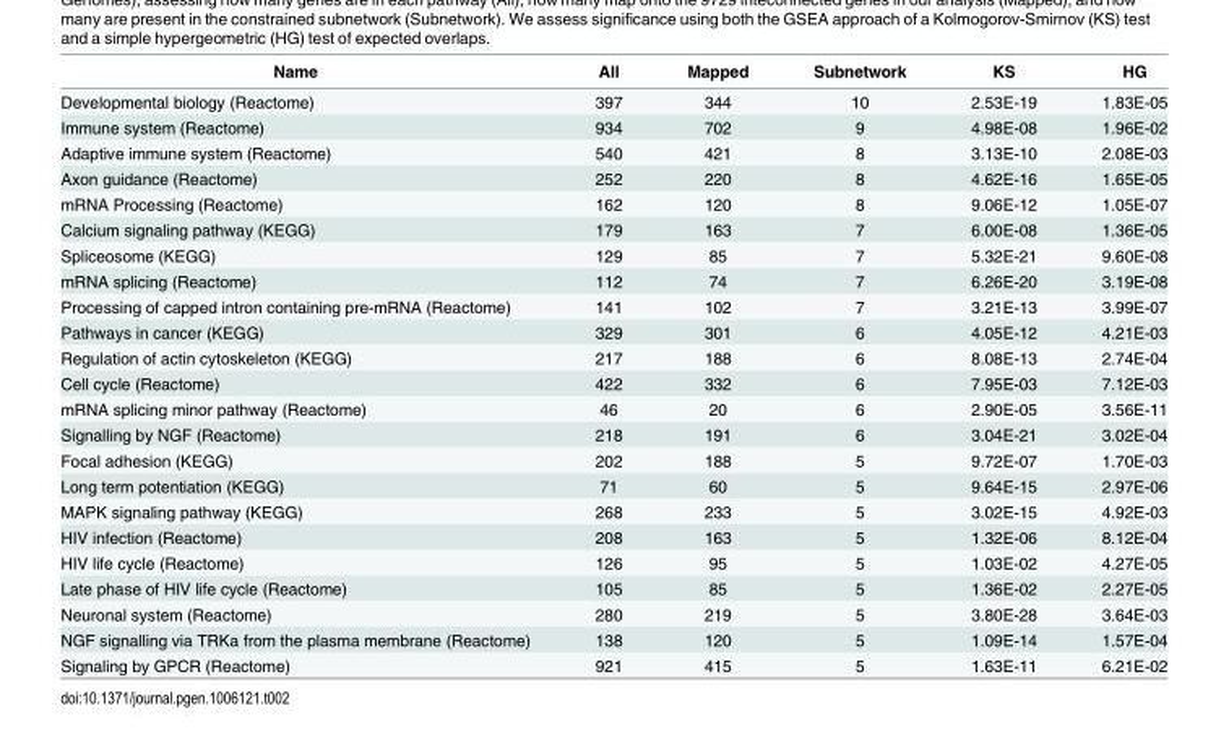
<table><thead><tr><td>Name</td><td>All</td><td>Mapped</td><td>Subnetwork</td><td>KS</td><td>HG</td></tr></thead><tbody><tr><td>Developmental biology (Reactome)</td><td>397</td><td>344</td><td>10</td><td>2.53E-19</td><td>1.83E-05</td></tr><tr><td>Immune system (Reactome)</td><td>934</td><td>702</td><td>9</td><td>4.98E-08</td><td>1.96E-02</td></tr><tr><td>Adaptive immune system (Reactome)</td><td>540</td><td>421</td><td>8</td><td>3.13E-10</td><td>2.08E-03</td></tr><tr><td>Axon guidance (Reactome)</td><td>252</td><td>220</td><td>8</td><td>4.62E-16</td><td>1.65E-05</td></tr><tr><td>mRNA Processing (Reactome)</td><td>162</td><td>120</td><td>8</td><td>9.06E-12</td><td>1.05E-07</td></tr><tr><td>Calcium signaling pathway (KEGG)</td><td>179</td><td>163</td><td>7</td><td>6.00E-08</td><td>1.36E-05</td></tr><tr><td>Spliceosome (KEGG)</td><td>129</td><td>85</td><td>7</td><td>5.32E-21</td><td>9.60E-08</td></tr><tr><td>mRNA splicing (Reactome)</td><td>112</td><td>74</td><td>7</td><td>6.26E-20</td><td>3.19E-08</td></tr><tr><td>Processing of capped intron containing pre-mRNA (Reactome)</td><td>141</td><td>102</td><td>7</td><td>3.21E-13</td><td>3.99E-07</td></tr><tr><td>Pathways in cancer (KEGG)</td><td>329</td><td>301</td><td>6</td><td>4.05E-12</td><td>4.21E-03</td></tr><tr><td>Regulation of actin cytoskeleton (KEGG)</td><td>217</td><td>188</td><td>6</td><td>8.08E-13</td><td>2.74E-04</td></tr><tr><td>Cell cycle (Reactome)</td><td>422</td><td>332</td><td>6</td><td>7.95E-03</td><td>7.12E-03</td></tr><tr><td>mRNA splicing minor pathway (Reactome)</td><td>46</td><td>20</td><td>6</td><td>2.90E-05</td><td>3.56E-11</td></tr><tr><td>Signalling by NGF (Reactome)</td><td>218</td><td>191</td><td>6</td><td>3.04E-21</td><td>3.02E-04</td></tr><tr><td>Focal adhesion (KEGG)</td><td>202</td><td>188</td><td>5</td><td>9.72E-07</td><td>1.70E-03</td></tr><tr><td>Long term potentiation (KEGG)</td><td>71</td><td>60</td><td>5</td><td>9.64E-15</td><td>2.97E-06</td></tr><tr><td>MAPK signaling pathway (KEGG)</td><td>268</td><td>233</td><td>5</td><td>3.02E-15</td><td>4.92E-03</td></tr><tr><td>HIV infection (Reactome)</td><td>208</td><td>163</td><td>5</td><td>1.32E-06</td><td>8.12E-04</td></tr><tr><td>HIV life cycle (Reactome)</td><td>126</td><td>95</td><td>5</td><td>1.03E-02</td><td>4.27E-05</td></tr><tr><td>Late phase of HIV life cycle (Reactome)</td><td>105</td><td>85</td><td>5</td><td>1.36E-02</td><td>2.27E-05</td></tr><tr><td>Neuronal system (Reactome)</td><td>280</td><td>219</td><td>5</td><td>3.80E-28</td><td>3.64E-03</td></tr><tr><td>NGF signalling via TRKa from the plasma membrane (Reactome)</td><td>138</td><td>120</td><td>5</td><td>1.09E-14</td><td>1.57E-04</td></tr><tr><td>Signaling by GPCR (Reactome)</td><td>921</td><td>415</td><td>5</td><td>1.63E-11</td><td>6.21E-02</td></tr></tbody></table>